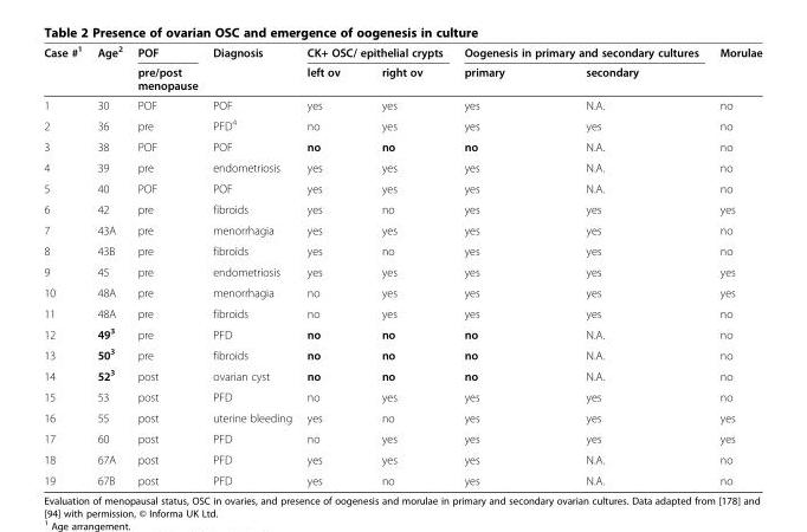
<table><thead><tr><td rowspan="2">Case #<sup>1</sup></td><td rowspan="2">Age<sup>2</sup></td><td rowspan="2">POF pre/post menopause</td><td rowspan="2">Diagnosis</td><td colspan="2">CK+ OSC/ epithelial crypts</td><td colspan="2">Oogenesis in primary and secondary cultures</td><td rowspan="2">Morulae</td></tr><tr><td>left ov</td><td>right ov</td><td>primary</td><td>secondary</td></tr></thead><tbody><tr><td>1</td><td>30</td><td>POF</td><td>POF</td><td>yes</td><td>yes</td><td>yes</td><td>N.A.</td><td>no</td></tr><tr><td>2</td><td>36</td><td>pre</td><td>PFD<sup>4</sup></td><td>no</td><td>yes</td><td>yes</td><td>yes</td><td>no</td></tr><tr><td>3</td><td>38</td><td>POF</td><td>POF</td><td>no</td><td>no</td><td>no</td><td>N.A.</td><td>no</td></tr><tr><td>4</td><td>39</td><td>pre</td><td>endometriosis</td><td>yes</td><td>yes</td><td>yes</td><td>N.A.</td><td>no</td></tr><tr><td>5</td><td>40</td><td>POF</td><td>POF</td><td>yes</td><td>yes</td><td>yes</td><td>N.A.</td><td>no</td></tr><tr><td>6</td><td>42</td><td>pre</td><td>fibroids</td><td>yes</td><td>no</td><td>yes</td><td>yes</td><td>yes</td></tr><tr><td>7</td><td>43A</td><td>pre</td><td>menorrhagia</td><td>yes</td><td>yes</td><td>yes</td><td>yes</td><td>no</td></tr><tr><td>8</td><td>43B</td><td>pre</td><td>fibroids</td><td>yes</td><td>no</td><td>yes</td><td>yes</td><td>no</td></tr><tr><td>9</td><td>45</td><td>pre</td><td>endometriosis</td><td>yes</td><td>yes</td><td>yes</td><td>yes</td><td>yes</td></tr><tr><td>10</td><td>48A</td><td>pre</td><td>menorrhagia</td><td>no</td><td>yes</td><td>yes</td><td>yes</td><td>yes</td></tr><tr><td>11</td><td>48A</td><td>pre</td><td>fibroids</td><td>no</td><td>yes</td><td>yes</td><td>yes</td><td>no</td></tr><tr><td>12</td><td>49<sup>3</sup></td><td>pre</td><td>PFD</td><td>no</td><td>no</td><td>no</td><td>N.A.</td><td>no</td></tr><tr><td>13</td><td>50<sup>3</sup></td><td>pre</td><td>fibroids</td><td>no</td><td>no</td><td>no</td><td>N.A.</td><td>no</td></tr><tr><td>14</td><td>52<sup>3</sup></td><td>post</td><td>ovarian cyst</td><td>no</td><td>no</td><td>no</td><td>N.A.</td><td>no</td></tr><tr><td>15</td><td>53</td><td>post</td><td>PFD</td><td>no</td><td>yes</td><td>yes</td><td>yes</td><td>no</td></tr><tr><td>16</td><td>55</td><td>post</td><td>uterine bleeding</td><td>yes</td><td>no</td><td>yes</td><td>yes</td><td>yes</td></tr><tr><td>17</td><td>60</td><td>post</td><td>PFD</td><td>no</td><td>yes</td><td>yes</td><td>yes</td><td>yes</td></tr><tr><td>18</td><td>67A</td><td>post</td><td>PFD</td><td>yes</td><td>yes</td><td>yes</td><td>N.A.</td><td>no</td></tr><tr><td>19</td><td>67B</td><td>post</td><td>PFD</td><td>yes</td><td>no</td><td>yes</td><td>N.A.</td><td>no</td></tr></tbody></table>